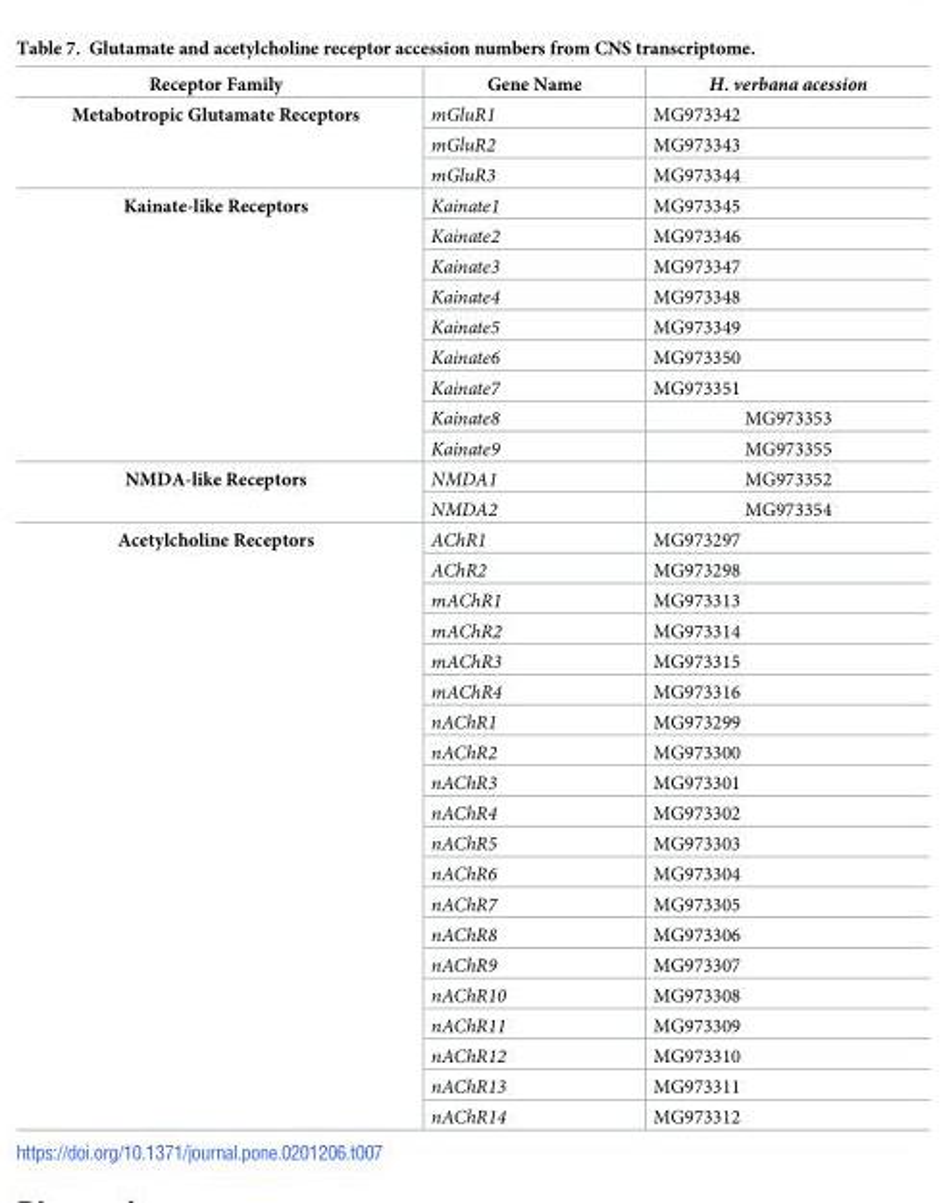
<table><thead><tr><td>Receptor Family</td><td>Gene Name</td><td>H. verbana acession</td></tr></thead><tbody><tr><td rowspan="3">Metabotropic Glutamate Receptors</td><td>mGluR1</td><td>MG973342</td></tr><tr><td>mGluR2</td><td>MG973343</td></tr><tr><td>mGluR3</td><td>MG973344</td></tr><tr><td rowspan="9">Kainate-like Receptors</td><td>Kainate1</td><td>MG973345</td></tr><tr><td>Kainate2</td><td>MG973346</td></tr><tr><td>Kainate3</td><td>MG973347</td></tr><tr><td>Kainate4</td><td>MG973348</td></tr><tr><td>Kainate5</td><td>MG973349</td></tr><tr><td>Kainate6</td><td>MG973350</td></tr><tr><td>Kainate7</td><td>MG973351</td></tr><tr><td>Kainate8</td><td>MG973353</td></tr><tr><td>Kainate9</td><td>MG973355</td></tr><tr><td rowspan="2">NMDA-like Receptors</td><td>NMDA1</td><td>MG973352</td></tr><tr><td>NMDA2</td><td>MG973354</td></tr><tr><td rowspan="20">Acetylcholine Receptors</td><td>AChR1</td><td>MG973297</td></tr><tr><td>AChR2</td><td>MG973298</td></tr><tr><td>mAChR1</td><td>MG973313</td></tr><tr><td>mAChR2</td><td>MG973314</td></tr><tr><td>mAChR3</td><td>MG973315</td></tr><tr><td>mAChR4</td><td>MG973316</td></tr><tr><td>nAChR1</td><td>MG973299</td></tr><tr><td>nAChR2</td><td>MG973300</td></tr><tr><td>nAChR3</td><td>MG973301</td></tr><tr><td>nAChR4</td><td>MG973302</td></tr><tr><td>nAChR5</td><td>MG973303</td></tr><tr><td>nAChR6</td><td>MG973304</td></tr><tr><td>nAChR7</td><td>MG973305</td></tr><tr><td>nAChR8</td><td>MG973306</td></tr><tr><td>nAChR9</td><td>MG973307</td></tr><tr><td>nAChR10</td><td>MG973308</td></tr><tr><td>nAChR11</td><td>MG973309</td></tr><tr><td>nAChR12</td><td>MG973310</td></tr><tr><td>nAChR13</td><td>MG973311</td></tr><tr><td>nAChR14</td><td>MG973312</td></tr></tbody></table>